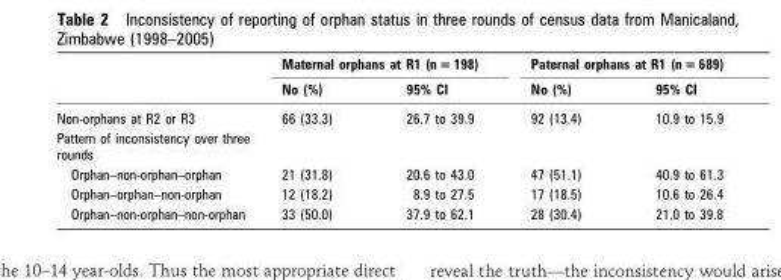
<table><thead><tr><td rowspan="2"></td><td colspan="2">Maternal orphans at R1 (n = 198)</td><td colspan="2">Paternal orphans at R1 (n = 689)</td></tr><tr><td>No (%)</td><td>95% CI</td><td>No (%)</td><td>95% CI</td></tr></thead><tbody><tr><td>Non-orphans at R2 or R3</td><td>66 (33.3)</td><td>26.7 to 39.9</td><td>92 (13.4)</td><td>10.9 to 15.9</td></tr><tr><td colspan="5">Pattern of inconsistency over three rounds</td></tr><tr><td>Orphan–non-orphan–orphan</td><td>21 (31.8)</td><td>20.6 to 43.0</td><td>47 (51.1)</td><td>40.9 to 61.3</td></tr><tr><td>Orphan–orphan–non-orphan</td><td>12 (18.2)</td><td>8.9 to 27.5</td><td>17 (18.5)</td><td>10.6 to 26.4</td></tr><tr><td>Orphan–non-orphan–non-orphan</td><td>33 (50.0)</td><td>37.9 to 62.1</td><td>28 (30.4)</td><td>21.0 to 39.8</td></tr></tbody></table>